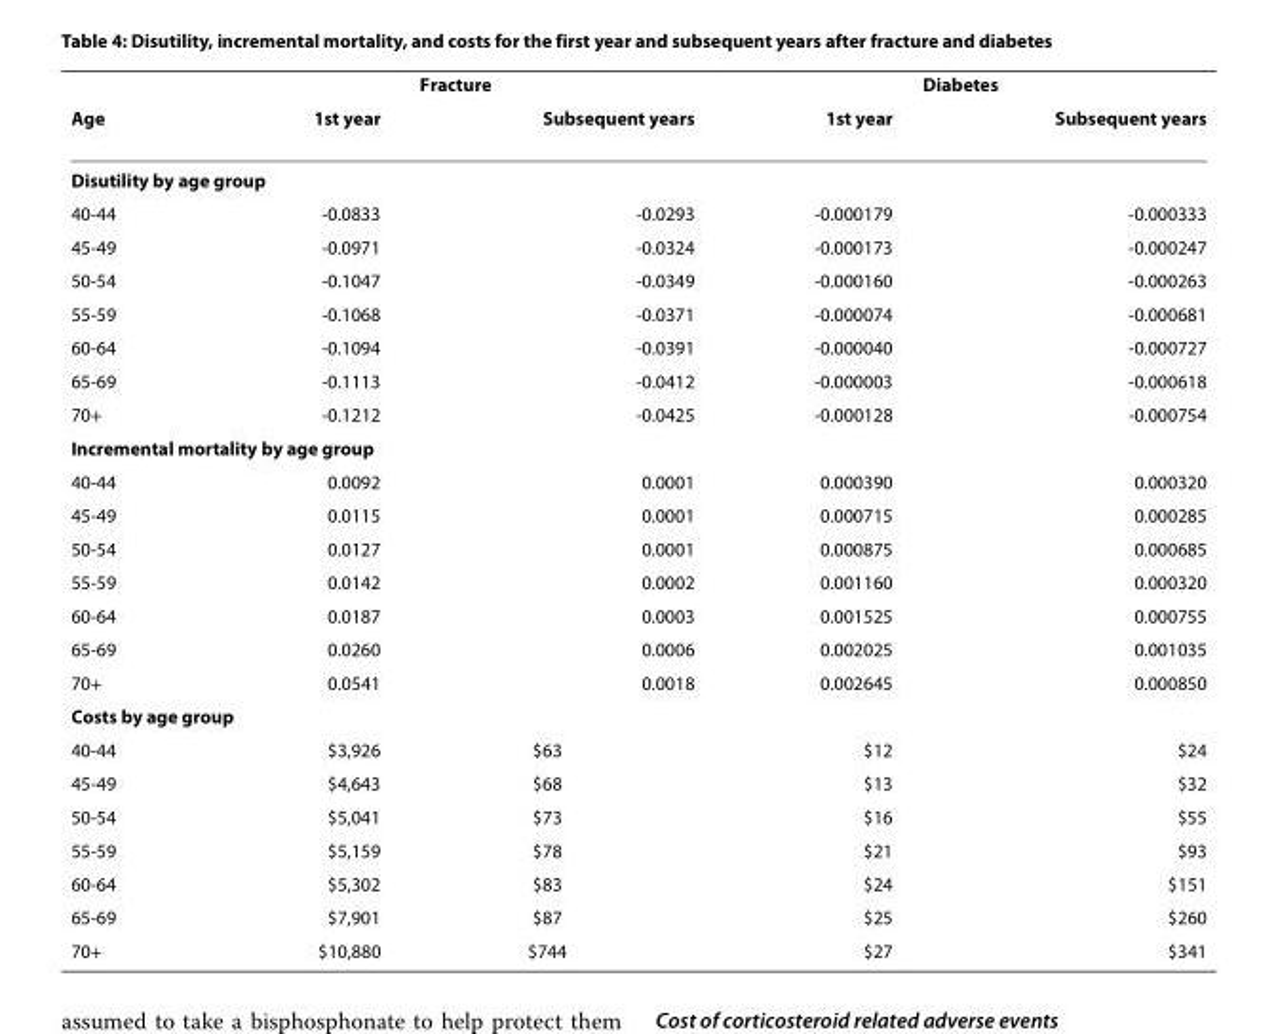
<table><thead><tr><td rowspan="2">Age</td><td colspan="2">Fracture</td><td colspan="2">Diabetes</td></tr><tr><td>1st year</td><td>Subsequent years</td><td>1st year</td><td>Subsequent years</td></tr></thead><tbody><tr><td colspan="5">Disutility by age group</td></tr><tr><td>40-44</td><td>-0.0833</td><td>-0.0293</td><td>-0.000179</td><td>-0.000333</td></tr><tr><td>45-49</td><td>-0.0971</td><td>-0.0324</td><td>-0.000173</td><td>-0.000247</td></tr><tr><td>50-54</td><td>-0.1047</td><td>-0.0349</td><td>-0.000160</td><td>-0.000263</td></tr><tr><td>55-59</td><td>-0.1068</td><td>-0.0371</td><td>-0.000074</td><td>-0.000681</td></tr><tr><td>60-64</td><td>-0.1094</td><td>-0.0391</td><td>-0.000040</td><td>-0.000727</td></tr><tr><td>65-69</td><td>-0.1113</td><td>-0.0412</td><td>-0.000003</td><td>-0.000618</td></tr><tr><td>70+</td><td>-0.1212</td><td>-0.0425</td><td>-0.000128</td><td>-0.000754</td></tr><tr><td colspan="5">Incremental mortality by age group</td></tr><tr><td>40-44</td><td>0.0092</td><td>0.0001</td><td>0.000390</td><td>0.000320</td></tr><tr><td>45-49</td><td>0.0115</td><td>0.0001</td><td>0.000715</td><td>0.000285</td></tr><tr><td>50-54</td><td>0.0127</td><td>0.0001</td><td>0.000875</td><td>0.000685</td></tr><tr><td>55-59</td><td>0.0142</td><td>0.0002</td><td>0.001160</td><td>0.000320</td></tr><tr><td>60-64</td><td>0.0187</td><td>0.0003</td><td>0.001525</td><td>0.000755</td></tr><tr><td>65-69</td><td>0.0260</td><td>0.0006</td><td>0.002025</td><td>0.001035</td></tr><tr><td>70+</td><td>0.0541</td><td>0.0018</td><td>0.002645</td><td>0.000850</td></tr><tr><td colspan="5">Costs by age group</td></tr><tr><td>40-44</td><td>$3,926</td><td>$63</td><td>$12</td><td>$24</td></tr><tr><td>45-49</td><td>$4,643</td><td>$68</td><td>$13</td><td>$32</td></tr><tr><td>50-54</td><td>$5,041</td><td>$73</td><td>$16</td><td>$55</td></tr><tr><td>55-59</td><td>$5,159</td><td>$78</td><td>$21</td><td>$93</td></tr><tr><td>60-64</td><td>$5,302</td><td>$83</td><td>$24</td><td>$151</td></tr><tr><td>65-69</td><td>$7,901</td><td>$87</td><td>$25</td><td>$260</td></tr><tr><td>70+</td><td>$10,880</td><td>$744</td><td>$27</td><td>$341</td></tr></tbody></table>